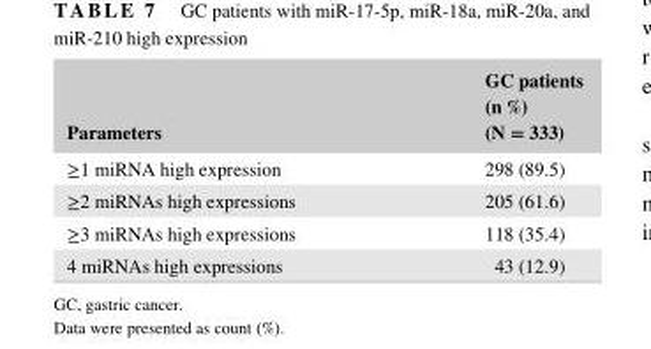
<table><thead><tr><td>Parameters</td><td>GC patients (n %) (N = 333)</td></tr></thead><tbody><tr><td>≥1 miRNA high expression</td><td>298 (89.5)</td></tr><tr><td>≥2 miRNAs high expressions</td><td>205 (61.6)</td></tr><tr><td>≥3 miRNAs high expressions</td><td>118 (35.4)</td></tr><tr><td>4 miRNAs high expressions</td><td>43 (12.9)</td></tr></tbody></table>